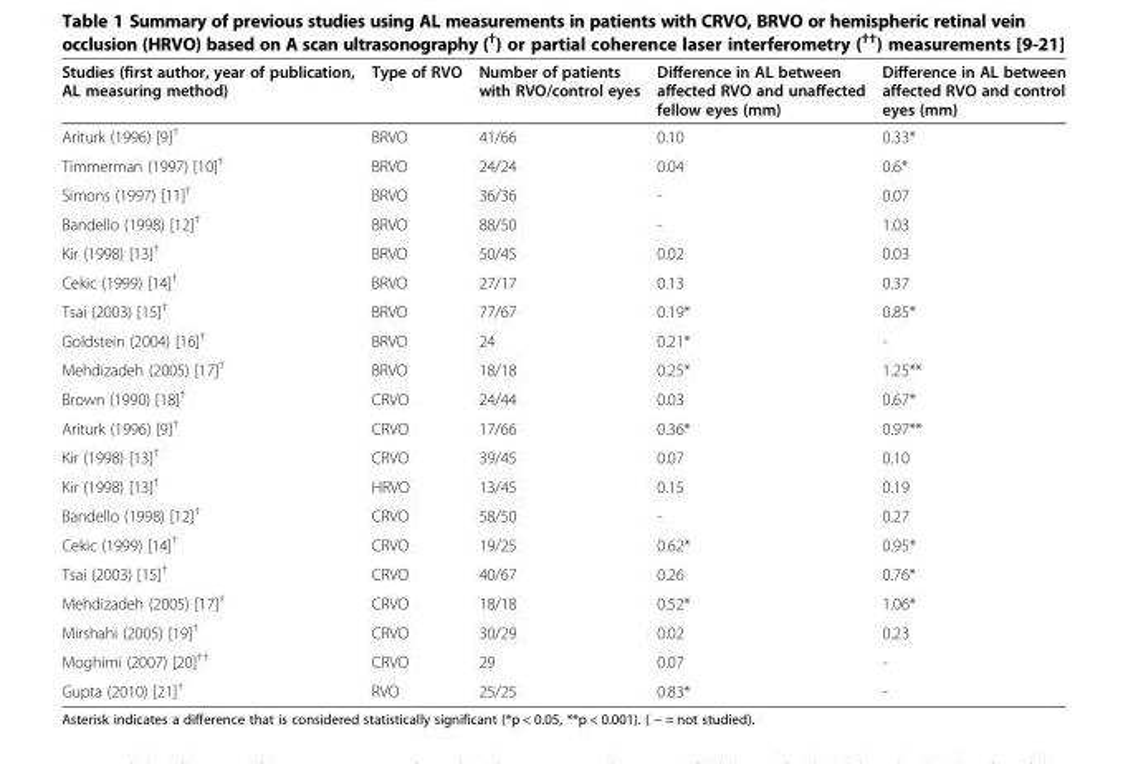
<table><thead><tr><td>Studies (first author, year of publication, AL measuring method)</td><td>Type of RVO</td><td>Number of patients with RVO/control eyes</td><td>Difference in AL between affected RVO and unaffected fellow eyes (mm)</td><td>Difference in AL between affected RVO and control eyes (mm)</td></tr></thead><tbody><tr><td>Ariturk (1996) [9]<sup>†</sup></td><td>BRVO</td><td>41/66</td><td>0.10</td><td>0.33*</td></tr><tr><td>Timmerman (1997) [10]<sup>†</sup></td><td>BRVO</td><td>24/24</td><td>0.04</td><td>0.6*</td></tr><tr><td>Simons (1997) [11]<sup>†</sup></td><td>BRVO</td><td>36/36</td><td>-</td><td>0.07</td></tr><tr><td>Bandello (1998) [12]<sup>†</sup></td><td>BRVO</td><td>88/50</td><td>-</td><td>1.03</td></tr><tr><td>Kir (1998) [13]<sup>†</sup></td><td>BRVO</td><td>50/45</td><td>0.02</td><td>0.03</td></tr><tr><td>Cekic (1999) [14]<sup>†</sup></td><td>BRVO</td><td>27/17</td><td>0.13</td><td>0.37</td></tr><tr><td>Tsai (2003) [15]<sup>†</sup></td><td>BRVO</td><td>77/67</td><td>0.19*</td><td>0.85*</td></tr><tr><td>Goldstein (2004) [16]<sup>†</sup></td><td>BRVO</td><td>24</td><td>0.21*</td><td>-</td></tr><tr><td>Mehdizadeh (2005) [17]<sup>†</sup></td><td>BRVO</td><td>18/18</td><td>0.25*</td><td>1.25**</td></tr><tr><td>Brown (1990) [18]<sup>†</sup></td><td>CRVO</td><td>24/44</td><td>0.03</td><td>0.67*</td></tr><tr><td>Ariturk (1996) [9]<sup>†</sup></td><td>CRVO</td><td>17/66</td><td>0.36*</td><td>0.97**</td></tr><tr><td>Kir (1998) [13]<sup>†</sup></td><td>CRVO</td><td>39/45</td><td>0.07</td><td>0.10</td></tr><tr><td>Kir (1998) [13]<sup>†</sup></td><td>HRVO</td><td>13/45</td><td>0.15</td><td>0.19</td></tr><tr><td>Bandello (1998) [12]<sup>†</sup></td><td>CRVO</td><td>58/50</td><td>-</td><td>0.27</td></tr><tr><td>Cekic (1999) [14]<sup>†</sup></td><td>CRVO</td><td>19/25</td><td>0.62*</td><td>0.95*</td></tr><tr><td>Tsai (2003) [15]<sup>†</sup></td><td>CRVO</td><td>40/67</td><td>0.26</td><td>0.76*</td></tr><tr><td>Mehdizadeh (2005) [17]<sup>†</sup></td><td>CRVO</td><td>18/18</td><td>0.52*</td><td>1.06*</td></tr><tr><td>Mirshahi (2005) [19]<sup>†</sup></td><td>CRVO</td><td>30/29</td><td>0.02</td><td>0.23</td></tr><tr><td>Moghimi (2007) [20]<sup>††</sup></td><td>CRVO</td><td>29</td><td>0.07</td><td>-</td></tr><tr><td>Gupta (2010) [21]<sup>†</sup></td><td>RVO</td><td>25/25</td><td>0.83*</td><td>-</td></tr></tbody></table>